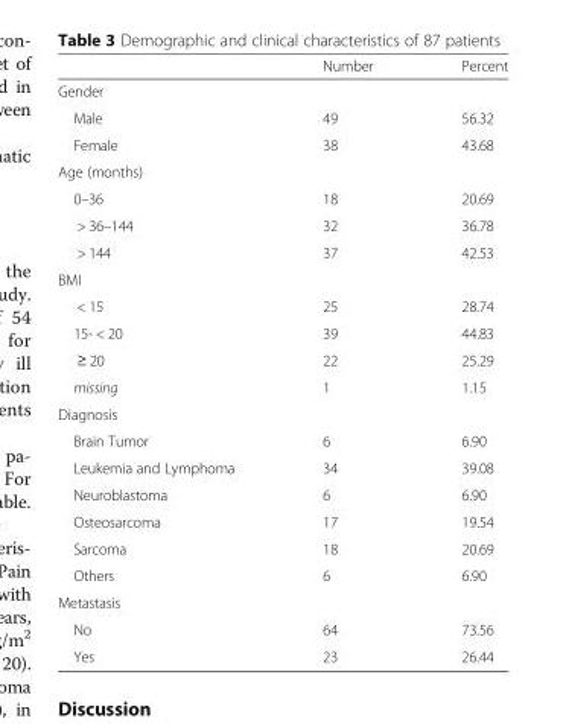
<table><thead><tr><td></td><td>Number</td><td>Percent</td></tr></thead><tbody><tr><td colspan="3">Gender</td></tr><tr><td>Male</td><td>49</td><td>56.32</td></tr><tr><td>Female</td><td>38</td><td>43.68</td></tr><tr><td colspan="3">Age (months)</td></tr><tr><td>0–36</td><td>18</td><td>20.69</td></tr><tr><td>&gt; 36–144</td><td>32</td><td>36.78</td></tr><tr><td>&gt; 144</td><td>37</td><td>42.53</td></tr><tr><td colspan="3">BMI</td></tr><tr><td>&lt; 15</td><td>25</td><td>28.74</td></tr><tr><td>15- &lt; 20</td><td>39</td><td>44.83</td></tr><tr><td>≥ 20</td><td>22</td><td>25.29</td></tr><tr><td>missing</td><td>1</td><td>1.15</td></tr><tr><td colspan="3">Diagnosis</td></tr><tr><td>Brain Tumor</td><td>6</td><td>6.90</td></tr><tr><td>Leukemia and Lymphoma</td><td>34</td><td>39.08</td></tr><tr><td>Neuroblastoma</td><td>6</td><td>6.90</td></tr><tr><td>Osteosarcoma</td><td>17</td><td>19.54</td></tr><tr><td>Sarcoma</td><td>18</td><td>20.69</td></tr><tr><td>Others</td><td>6</td><td>6.90</td></tr><tr><td colspan="3">Metastasis</td></tr><tr><td>No</td><td>64</td><td>73.56</td></tr><tr><td>Yes</td><td>23</td><td>26.44</td></tr></tbody></table>